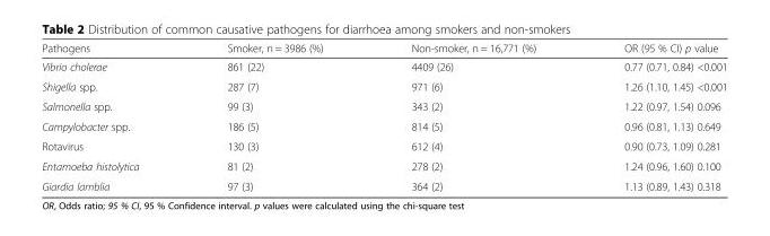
<table><thead><tr><td>Pathogens</td><td>Smoker, n = 3986 (%)</td><td>Non-smoker, n = 16,771 (%)</td><td>OR (95 % CI) p value</td></tr></thead><tbody><tr><td>Vibrio cholerae</td><td>861 (22)</td><td>4409 (26)</td><td>0.77 (0.71, 0.84) &lt;0.001</td></tr><tr><td>Shigella spp.</td><td>287 (7)</td><td>971 (6)</td><td>1.26 (1.10, 1.45) &lt;0.001</td></tr><tr><td>Salmonella spp.</td><td>99 (3)</td><td>343 (2)</td><td>1.22 (0.97, 1.54) 0.096</td></tr><tr><td>Campylobacter spp.</td><td>186 (5)</td><td>814 (5)</td><td>0.96 (0.81, 1.13) 0.649</td></tr><tr><td>Rotavirus</td><td>130 (3)</td><td>612 (4)</td><td>0.90 (0.73, 1.09) 0.281</td></tr><tr><td>Entamoeba histolytica</td><td>81 (2)</td><td>278 (2)</td><td>1.24 (0.96, 1.60) 0.100</td></tr><tr><td>Giardia lamblia</td><td>97 (3)</td><td>364 (2)</td><td>1.13 (0.89, 1.43) 0.318</td></tr></tbody></table>